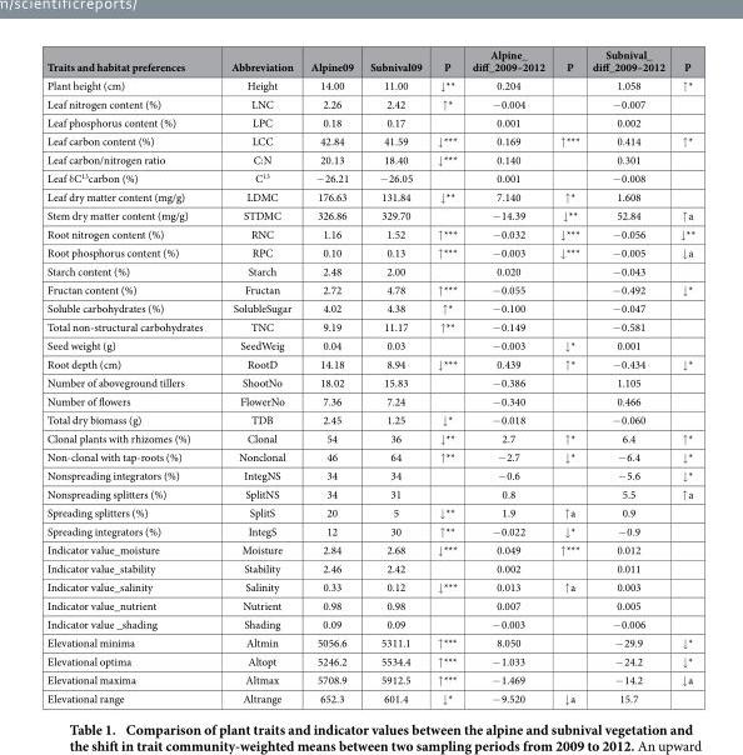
<table><thead><tr><td>Traits and habitat preferences</td><td>Abbreviation</td><td>Alpine09</td><td>Subnival09</td><td>P</td><td>Alpine_ diff_2009–2012</td><td>P</td><td>Subnival_ diff_2009–2012</td><td>P</td></tr></thead><tbody><tr><td>Plant height (cm)</td><td>Height</td><td>14.00</td><td>11.00</td><td>↓ **</td><td>0.204</td><td></td><td>1.058</td><td>↑ *</td></tr><tr><td>Leaf nitrogen content (%)</td><td>LNC</td><td>2.26</td><td>2.42</td><td>↑ *</td><td>− 0.004</td><td></td><td>− 0.007</td><td></td></tr><tr><td>Leaf phosphorus content (%)</td><td>LPC</td><td>0.18</td><td>0.17</td><td></td><td>0.001</td><td></td><td>0.002</td><td></td></tr><tr><td>Leaf carbon content (%)</td><td>LCC</td><td>42.84</td><td>41.59</td><td>↓ ***</td><td>0.169</td><td>↑ ***</td><td>0.414</td><td>↑ *</td></tr><tr><td>Leaf carbon/nitrogen ratio</td><td>C:N</td><td>20.13</td><td>18.40</td><td>↓ ***</td><td>0.140</td><td></td><td>0.301</td><td></td></tr><tr><td>Leaf δ C<sup>13</sup>carbon (%)</td><td>C<sup>13</sup></td><td>− 26.21</td><td>− 26.05</td><td></td><td>0.001</td><td></td><td>− 0.008</td><td></td></tr><tr><td>Leaf dry matter content (mg/g)</td><td>LDMC</td><td>176.63</td><td>131.84</td><td>↓ **</td><td>7.140</td><td>↑ *</td><td>1.608</td><td></td></tr><tr><td>Stem dry matter content (mg/g)</td><td>STDMC</td><td>326.86</td><td>329.70</td><td></td><td>− 14.39</td><td>↓ **</td><td>52.84</td><td>↑ a</td></tr><tr><td>Root nitrogen content (%)</td><td>RNC</td><td>1.16</td><td>1.52</td><td>↑ ***</td><td>− 0.032</td><td>↓ ***</td><td>− 0.056</td><td>↓ **</td></tr><tr><td>Root phosphorus content (%)</td><td>RPC</td><td>0.10</td><td>0.13</td><td>↑ ***</td><td>− 0.003</td><td>↓ ***</td><td>− 0.005</td><td>↓ a</td></tr><tr><td>Starch content (%)</td><td>Starch</td><td>2.48</td><td>2.00</td><td></td><td>0.020</td><td></td><td>− 0.043</td><td></td></tr><tr><td>Fructan content (%)</td><td>Fructan</td><td>2.72</td><td>4.78</td><td>↑ ***</td><td>− 0.055</td><td></td><td>− 0.492</td><td>↓ *</td></tr><tr><td>Soluble carbohydrates (%)</td><td>SolubleSugar</td><td>4.02</td><td>4.38</td><td>↑ *</td><td>− 0.100</td><td></td><td>− 0.047</td><td></td></tr><tr><td>Total non-structural carbohydrates</td><td>TNC</td><td>9.19</td><td>11.17</td><td>↑ **</td><td>− 0.149</td><td></td><td>− 0.581</td><td></td></tr><tr><td>Seed weight (g)</td><td>SeedWeig</td><td>0.04</td><td>0.03</td><td></td><td>− 0.003</td><td>↓ *</td><td>0.001</td><td></td></tr><tr><td>Root depth (cm)</td><td>RootD</td><td>14.18</td><td>8.94</td><td>↓ ***</td><td>0.439</td><td>↑ *</td><td>− 0.434</td><td>↓ *</td></tr><tr><td>Number of aboveground tillers</td><td>ShootNo</td><td>18.02</td><td>15.83</td><td></td><td>− 0.386</td><td></td><td>1.105</td><td></td></tr><tr><td>Number of flowers</td><td>FlowerNo</td><td>7.36</td><td>7.24</td><td></td><td>− 0.340</td><td></td><td>0.466</td><td></td></tr><tr><td>Total dry biomass (g)</td><td>TDB</td><td>2.45</td><td>1.25</td><td>↓ *</td><td>− 0.018</td><td></td><td>− 0.060</td><td></td></tr><tr><td>Clonal plants with rhizomes (%)</td><td>Clonal</td><td>54</td><td>36</td><td>↓ **</td><td>2.7</td><td>↑ *</td><td>6.4</td><td>↑ *</td></tr><tr><td>Non-clonal with tap-roots (%)</td><td>Nonclonal</td><td>46</td><td>64</td><td>↑ **</td><td>− 2.7</td><td>↓ *</td><td>− 6.4</td><td>↓ *</td></tr><tr><td>Nonspreading integrators (%)</td><td>IntegNS</td><td>34</td><td>34</td><td></td><td>− 0.6</td><td></td><td>− 5.6</td><td>↓ *</td></tr><tr><td>Nonspreading splitters (%)</td><td>SplitNS</td><td>34</td><td>31</td><td></td><td>0.8</td><td></td><td>5.5</td><td>↑ a</td></tr><tr><td>Spreading splitters (%)</td><td>SplitS</td><td>20</td><td>5</td><td>↓ **</td><td>1.9</td><td>↑ a</td><td>0.9</td><td></td></tr><tr><td>Spreading integrators (%)</td><td>IntegS</td><td>12</td><td>30</td><td>↑ **</td><td>− 0.022</td><td>↓ *</td><td>− 0.9</td><td></td></tr><tr><td>Indicator value_moisture</td><td>Moisture</td><td>2.84</td><td>2.68</td><td>↓ ***</td><td>0.049</td><td>↑ ***</td><td>0.012</td><td></td></tr><tr><td>Indicator value_stability</td><td>Stability</td><td>2.46</td><td>2.42</td><td></td><td>0.002</td><td></td><td>0.011</td><td></td></tr><tr><td>Indicator value_salinity</td><td>Salinity</td><td>0.33</td><td>0.12</td><td>↓ ***</td><td>0.013</td><td>↑ a</td><td>0.003</td><td></td></tr><tr><td>Indicator value_nutrient</td><td>Nutrient</td><td>0.98</td><td>0.98</td><td></td><td>0.007</td><td></td><td>0.005</td><td></td></tr><tr><td>Indicator value _shading</td><td>Shading</td><td>0.09</td><td>0.09</td><td></td><td>− 0.003</td><td></td><td>− 0.006</td><td></td></tr><tr><td>Elevational minima</td><td>Altmin</td><td>5056.6</td><td>5311.1</td><td>↑ ***</td><td>8.050</td><td></td><td>− 29.9</td><td>↓ *</td></tr><tr><td>Elevational optima</td><td>Altopt</td><td>5246.2</td><td>5534.4</td><td>↑ ***</td><td>− 1.033</td><td></td><td>− 24.2</td><td>↓ *</td></tr><tr><td>Elevational maxima</td><td>Altmax</td><td>5708.9</td><td>5912.5</td><td>↑ ***</td><td>− 1.469</td><td></td><td>− 14.2</td><td>↓ a</td></tr><tr><td>Elevational range</td><td>Altrange</td><td>652.3</td><td>601.4</td><td>↓ *</td><td>− 9.520</td><td>↓ a</td><td>15.7</td><td></td></tr></tbody></table>